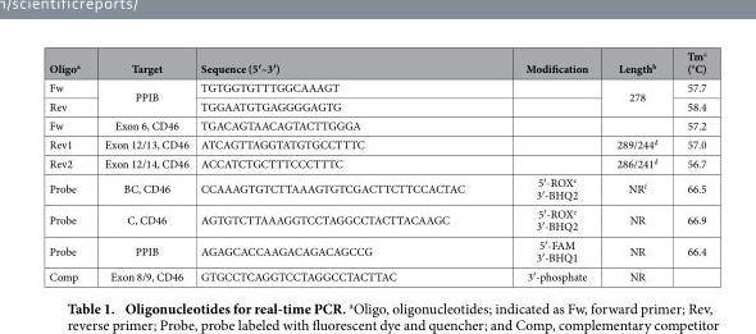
<table><thead><tr><td>Oligo<sup>a</sup></td><td>Target</td><td>Sequence (5′–3′)</td><td>Modification</td><td>Length<sup>b</sup></td><td>Tm<sup>c</sup> (°C)</td></tr></thead><tbody><tr><td>Fw</td><td rowspan="2">PPIB</td><td>TGTGGTGTTTGGCAAAGT</td><td></td><td rowspan="2">278</td><td>57.7</td></tr><tr><td>Rev</td><td>TGGAATGTGAGGGGAGTG</td><td></td><td>58.4</td></tr><tr><td>Fw</td><td>Exon 6, CD46</td><td>TGACAGTAACAGTACTTGGGA</td><td></td><td></td><td>57.2</td></tr><tr><td>Rev1</td><td>Exon 12/13, CD46</td><td>ATCAGTTAGGTATGTGCCTTTC</td><td></td><td>289/244<sup>d</sup></td><td>57.0</td></tr><tr><td>Rev2</td><td>Exon 12/14, CD46</td><td>ACCATCTGCTTTCCCTTTC</td><td></td><td>286/241<sup>d</sup></td><td>56.7</td></tr><tr><td>Probe</td><td>BC, CD46</td><td>CCAAAGTGTCTTAAAGTGTCGACTTCTTCCACTAC</td><td>5′ -ROX<sup>e</sup> 3′ -BHQ2</td><td>NR<sup>f</sup></td><td>66.5</td></tr><tr><td>Probe</td><td>C, CD46</td><td>AGTGTCTTAAAGGTCCTAGGCCTACTTACAAGC</td><td>5′ -ROX<sup>e</sup> 3′ -BHQ2</td><td>NR</td><td>66.9</td></tr><tr><td>Probe</td><td>PPIB</td><td>AGAGCACCAAGACAGACAGCCG</td><td>5′ -FAM 3′ -BHQ1</td><td>NR</td><td>66.4</td></tr><tr><td>Comp</td><td>Exon 8/9, CD46</td><td>GTGCCTCAGGTCCTAGGCCTACTTAC</td><td>3′ -phosphate</td><td>NR</td><td></td></tr></tbody></table>